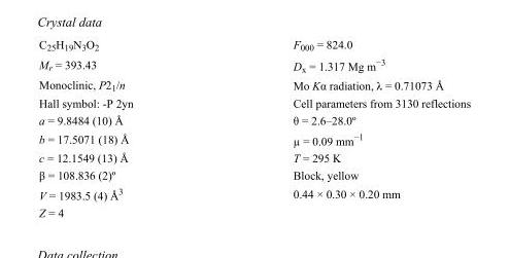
<table><tbody><tr><td>C<sub>25</sub>H<sub>19</sub>N<sub>3</sub>O<sub>2</sub></td><td>F000 = 824.0</td></tr><tr><td>M<sub>r</sub> = 393.43</td><td>D<sub>x</sub> = 1.317 Mg m<sup>−3</sup></td></tr><tr><td>Monoclinic, P2<sub>1</sub>/n</td><td>Mo Kα radiation, λ = 0.71073 Å</td></tr><tr><td>Hall symbol: -P 2yn</td><td>Cell parameters from 3130 reflections</td></tr><tr><td>a = 9.8484 (10) Å</td><td>θ = 2.6–28.0º</td></tr><tr><td>b = 17.5071 (18) Å</td><td>µ = 0.09 mm<sup>−1</sup></td></tr><tr><td>c = 12.1549 (13) Å</td><td>T = 295 K</td></tr><tr><td>β = 108.836 (2)º</td><td>Block, yellow</td></tr><tr><td>V = 1983.5 (4) Å<sup>3</sup></td><td>0.44 × 0.30 × 0.20 mm</td></tr><tr><td>Z = 4</td><td></td></tr></tbody></table>